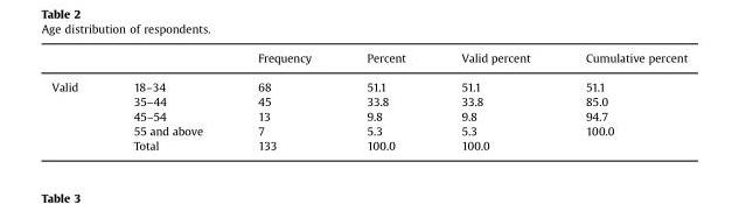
<table><thead><tr><td></td><td></td><td>Frequency</td><td>Percent</td><td>Valid percent</td><td>Cumulative percent</td></tr></thead><tbody><tr><td rowspan="5">Valid</td><td>18–34</td><td>68</td><td>51.1</td><td>51.1</td><td>51.1</td></tr><tr><td>35–44</td><td>45</td><td>33.8</td><td>33.8</td><td>85.0</td></tr><tr><td>45–54</td><td>13</td><td>9.8</td><td>9.8</td><td>94.7</td></tr><tr><td>55 and above</td><td>7</td><td>5.3</td><td>5.3</td><td>100.0</td></tr><tr><td>Total</td><td>133</td><td>100.0</td><td>100.0</td><td></td></tr></tbody></table>